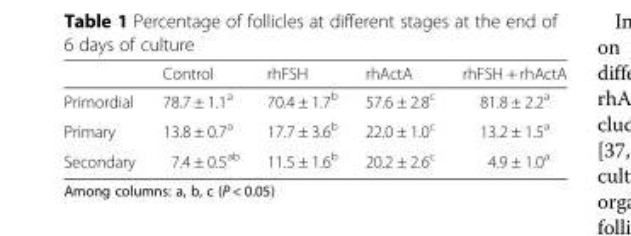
<table><thead><tr><td></td><td>Control</td><td>rhFSH</td><td>rhActA</td><td>rhFSH + rhActA</td></tr></thead><tbody><tr><td>Primordial</td><td>78.7 ± 1.1<sup>a</sup></td><td>70.4 ± 1.7<sup>b</sup></td><td>57.6 ± 2.8<sup>c</sup></td><td>81.8 ± 2.2<sup>a</sup></td></tr><tr><td>Primary</td><td>13.8 ± 0.7<sup>a</sup></td><td>17.7 ± 3.6<sup>b</sup></td><td>22.0 ± 1.0<sup>c</sup></td><td>13.2 ± 1.5<sup>a</sup></td></tr><tr><td>Secondary</td><td>7.4 ± 0.5<sup>ab</sup></td><td>11.5 ± 1.6<sup>b</sup></td><td>20.2 ± 2.6<sup>c</sup></td><td>4.9 ± 1.0<sup>a</sup></td></tr></tbody></table>